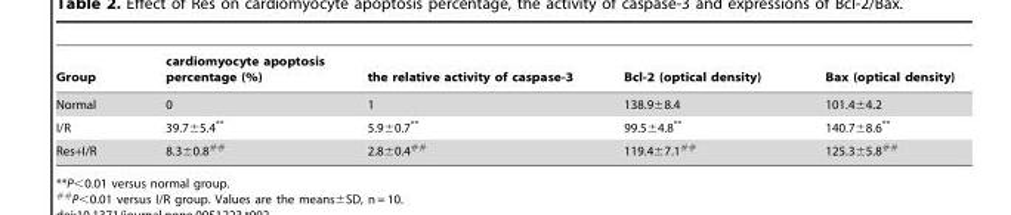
<table><thead><tr><td>Group</td><td>cardiomyocyte apoptosis percentage (%)</td><td>the relative activity of caspase-3</td><td>Bcl-2 (optical density)</td><td>Bax (optical density)</td></tr></thead><tbody><tr><td>Normal</td><td>0</td><td>1</td><td>138.9±8.4</td><td>101.4±4.2</td></tr><tr><td>I/R</td><td>39.7±5.4**</td><td>5.9±0.7**</td><td>99.5±4.8**</td><td>140.7±8.6**</td></tr><tr><td>Res+I/R</td><td>8.3±0.8##</td><td>2.8±0.4##</td><td>119.4±7.1##</td><td>125.3±5.8##</td></tr></tbody></table>